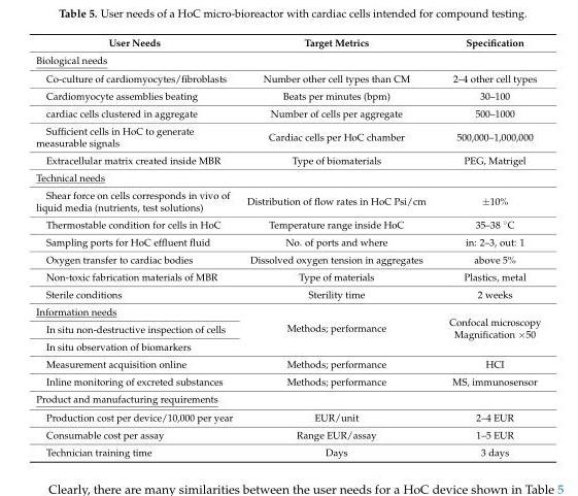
<table><thead><tr><td>User Needs</td><td>Target Metrics</td><td>Specification</td></tr></thead><tbody><tr><td colspan="3">Biological needs</td></tr><tr><td>Co-culture of cardiomyocytes/fibroblasts</td><td>Number other cell types than CM</td><td>2–4 other cell types</td></tr><tr><td>Cardiomyocyte assemblies beating</td><td>Beats per minutes (bpm)</td><td>30–100</td></tr><tr><td>cardiac cells clustered in aggregate</td><td>Number of cells per aggregate</td><td>500–1000</td></tr><tr><td>Sufficient cells in HoC to generate measurable signals</td><td>Cardiac cells per HoC chamber</td><td>500,000–1,000,000</td></tr><tr><td>Extracellular matrix created inside MBR</td><td>Type of biomaterials</td><td>PEG, Matrigel</td></tr><tr><td colspan="3">Technical needs</td></tr><tr><td>Shear force on cells corresponds in vivo of liquid media (nutrients, test solutions)</td><td>Distribution of flow rates in HoC Psi/cm</td><td>±10%</td></tr><tr><td>Thermostable condition for cells in HoC</td><td>Temperature range inside HoC</td><td>35–38 ◦C</td></tr><tr><td>Sampling ports for HoC effluent fluid</td><td>No. of ports and where</td><td>in: 2–3, out: 1</td></tr><tr><td>Oxygen transfer to cardiac bodies</td><td>Dissolved oxygen tension in aggregates</td><td>above 5%</td></tr><tr><td>Non-toxic fabrication materials of MBR</td><td>Type of materials</td><td>Plastics, metal</td></tr><tr><td>Sterile conditions</td><td>Sterility time</td><td>2 weeks</td></tr><tr><td>Information needs</td><td rowspan="3">Methods; performance</td><td rowspan="3">Confocal microscopy Magnification ×50</td></tr><tr><td>In situ non-destructive inspection of cells</td></tr><tr><td>In situ observation of biomarkers</td></tr><tr><td>Measurement acquisition online</td><td>Methods; performance</td><td>HCI</td></tr><tr><td>Inline monitoring of excreted substances</td><td>Methods; performance</td><td>MS, immunosensor</td></tr><tr><td colspan="3">Product and manufacturing requirements</td></tr><tr><td>Production cost per device/10,000 per year</td><td>EUR/unit</td><td>2–4 EUR</td></tr><tr><td>Consumable cost per assay</td><td>Range EUR/assay</td><td>1–5 EUR</td></tr><tr><td>Technician training time</td><td>Days</td><td>3 days</td></tr></tbody></table>